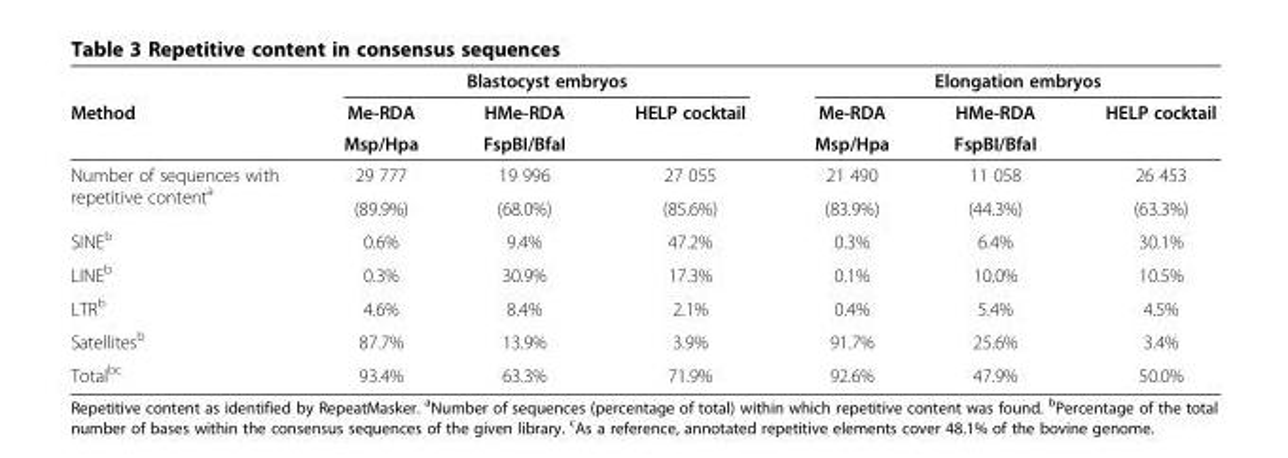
<table><thead><tr><td rowspan="3">Method</td><td colspan="3">Blastocyst embryos</td><td colspan="3">Elongation embryos</td></tr><tr><td rowspan="2">Me-RDA Msp/Hpa</td><td rowspan="2">HMe-RDA FspBI/BfaI</td><td rowspan="2">HELP cocktail</td><td rowspan="2">Me-RDA Msp/Hpa</td><td rowspan="2">HMe-RDA FspBI/BfaI</td><td rowspan="2">HELP cocktail</td></tr><tr></tr></thead><tbody><tr><td rowspan="2">Number of sequences with repetitive content<sup>a</sup></td><td>29 777</td><td>19 996</td><td>27 055</td><td>21 490</td><td>11 058</td><td>26 453</td></tr><tr><td>(89.9%)</td><td>(68.0%)</td><td>(85.6%)</td><td>(83.9%)</td><td>(44.3%)</td><td>(63.3%)</td></tr><tr><td>SINE<sup>b</sup></td><td>0.6%</td><td>9.4%</td><td>47.2%</td><td>0.3%</td><td>6.4%</td><td>30.1%</td></tr><tr><td>LINE<sup>b</sup></td><td>0.3%</td><td>30.9%</td><td>17.3%</td><td>0.1%</td><td>10.0%</td><td>10.5%</td></tr><tr><td>LTR<sup>b</sup></td><td>4.6%</td><td>8.4%</td><td>2.1%</td><td>0.4%</td><td>5.4%</td><td>4.5%</td></tr><tr><td>Satellites<sup>b</sup></td><td>87.7%</td><td>13.9%</td><td>3.9%</td><td>91.7%</td><td>25.6%</td><td>3.4%</td></tr><tr><td>Total<sup>bc</sup></td><td>93.4%</td><td>63.3%</td><td>71.9%</td><td>92.6%</td><td>47.9%</td><td>50.0%</td></tr></tbody></table>